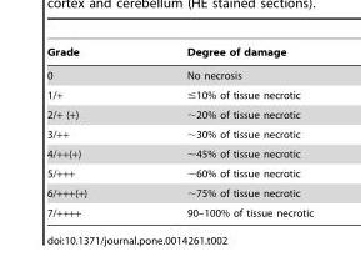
<table><thead><tr><td>Grade</td><td>Degree of damage</td></tr></thead><tbody><tr><td>0</td><td>No necrosis</td></tr><tr><td>1/+</td><td>≤10% of tissue necrotic</td></tr><tr><td>2/+ (+)</td><td>∼20% of tissue necrotic</td></tr><tr><td>3/++</td><td>∼30% of tissue necrotic</td></tr><tr><td>4/++(+)</td><td>∼45% of tissue necrotic</td></tr><tr><td>5/+++</td><td>∼60% of tissue necrotic</td></tr><tr><td>6/+++(+)</td><td>∼75% of tissue necrotic</td></tr><tr><td>7/++++</td><td>90–100% of tissue necrotic</td></tr></tbody></table>